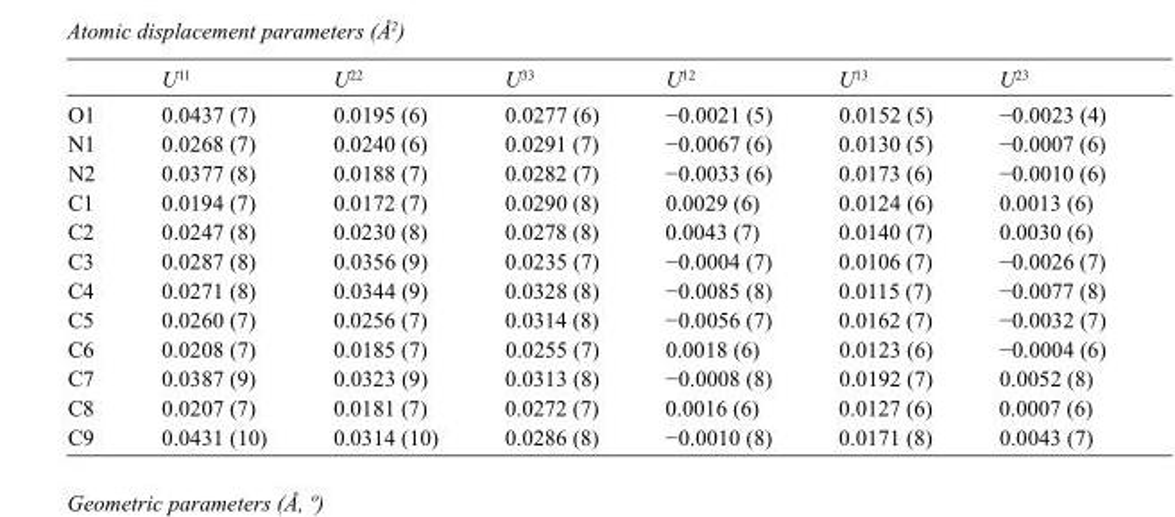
<table><thead><tr><td></td><td>U<sup>11</sup></td><td>U<sup>22</sup></td><td>U<sup>33</sup></td><td>U<sup>12</sup></td><td>U<sup>13</sup></td><td>U<sup>23</sup></td></tr></thead><tbody><tr><td>O1</td><td>0.0437 (7)</td><td>0.0195 (6)</td><td>0.0277 (6)</td><td>−0.0021 (5)</td><td>0.0152 (5)</td><td>−0.0023 (4)</td></tr><tr><td>N1</td><td>0.0268 (7)</td><td>0.0240 (6)</td><td>0.0291 (7)</td><td>−0.0067 (6)</td><td>0.0130 (5)</td><td>−0.0007 (6)</td></tr><tr><td>N2</td><td>0.0377 (8)</td><td>0.0188 (7)</td><td>0.0282 (7)</td><td>−0.0033 (6)</td><td>0.0173 (6)</td><td>−0.0010 (6)</td></tr><tr><td>C1</td><td>0.0194 (7)</td><td>0.0172 (7)</td><td>0.0290 (8)</td><td>0.0029 (6)</td><td>0.0124 (6)</td><td>0.0013 (6)</td></tr><tr><td>C2</td><td>0.0247 (8)</td><td>0.0230 (8)</td><td>0.0278 (8)</td><td>0.0043 (7)</td><td>0.0140 (7)</td><td>0.0030 (6)</td></tr><tr><td>C3</td><td>0.0287 (8)</td><td>0.0356 (9)</td><td>0.0235 (7)</td><td>−0.0004 (7)</td><td>0.0106 (7)</td><td>−0.0026 (7)</td></tr><tr><td>C4</td><td>0.0271 (8)</td><td>0.0344 (9)</td><td>0.0328 (8)</td><td>−0.0085 (8)</td><td>0.0115 (7)</td><td>−0.0077 (8)</td></tr><tr><td>C5</td><td>0.0260 (7)</td><td>0.0256 (7)</td><td>0.0314 (8)</td><td>−0.0056 (7)</td><td>0.0162 (7)</td><td>−0.0032 (7)</td></tr><tr><td>C6</td><td>0.0208 (7)</td><td>0.0185 (7)</td><td>0.0255 (7)</td><td>0.0018 (6)</td><td>0.0123 (6)</td><td>−0.0004 (6)</td></tr><tr><td>C7</td><td>0.0387 (9)</td><td>0.0323 (9)</td><td>0.0313 (8)</td><td>−0.0008 (8)</td><td>0.0192 (7)</td><td>0.0052 (8)</td></tr><tr><td>C8</td><td>0.0207 (7)</td><td>0.0181 (7)</td><td>0.0272 (7)</td><td>0.0016 (6)</td><td>0.0127 (6)</td><td>0.0007 (6)</td></tr><tr><td>C9</td><td>0.0431 (10)</td><td>0.0314 (10)</td><td>0.0286 (8)</td><td>−0.0010 (8)</td><td>0.0171 (8)</td><td>0.0043 (7)</td></tr></tbody></table>